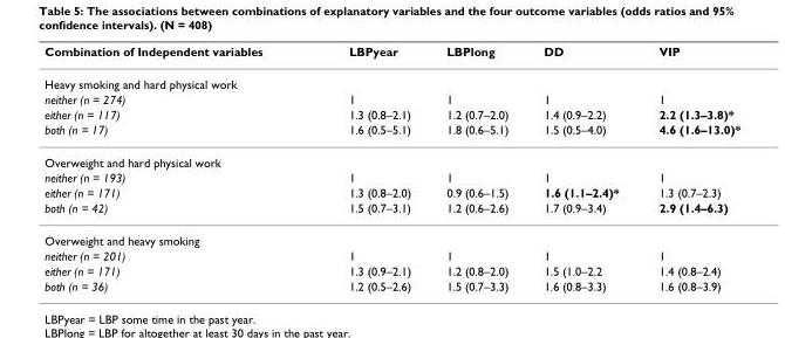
<table><thead><tr><td>Combination of Independent variables</td><td>LBPyear</td><td>LBPlong</td><td>DD</td><td>VIP</td></tr></thead><tbody><tr><td colspan="5">Heavy smoking and hard physical work</td></tr><tr><td>neither (n = 274)</td><td>1</td><td>1</td><td>1</td><td>1</td></tr><tr><td>either (n = 117)</td><td>1.3 (0.8–2.1)</td><td>1.2 (0.7–2.0)</td><td>1.4 (0.9–2.2)</td><td>2.2 (1.3–3.8)*</td></tr><tr><td>both (n = 17)</td><td>1.6 (0.5–5.1)</td><td>1.8 (0.6–5.1)</td><td>1.5 (0.5–4.0)</td><td>4.6 (1.6–13.0)*</td></tr><tr><td colspan="5">Overweight and hard physical work</td></tr><tr><td>neither (n = 193)</td><td>1</td><td>1</td><td>1</td><td>1</td></tr><tr><td>either (n = 171)</td><td>1.3 (0.8–2.0)</td><td>0.9 (0.6–1.5)</td><td>1.6 (1.1–2.4)*</td><td>1.3 (0.7–2.3)</td></tr><tr><td>both (n = 42)</td><td>1.5 (0.7–3.1)</td><td>1.2 (0.6–2.6)</td><td>1.7 (0.9–3.4)</td><td>2.9 (1.4–6.3)</td></tr><tr><td colspan="5">Overweight and heavy smoking</td></tr><tr><td>neither (n = 201)</td><td>1</td><td>1</td><td>1</td><td>1</td></tr><tr><td>either (n = 171)</td><td>1.3 (0.9–2.1)</td><td>1.2 (0.8–2.0)</td><td>1.5 (1.0–2.2</td><td>1.4 (0.8–2.4)</td></tr><tr><td>both (n = 36)</td><td>1.2 (0.5–2.6)</td><td>1.5 (0.7–3.3)</td><td>1.6 (0.8–3.3)</td><td>1.6 (0.8–3.9)</td></tr></tbody></table>